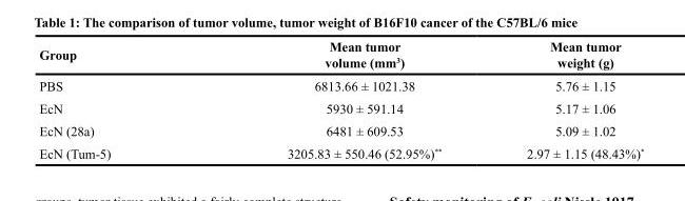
<table><thead><tr><td>Group</td><td>Mean tumor volume (mm<sup>3</sup>)</td><td>Mean tumor weight (g)</td></tr></thead><tbody><tr><td>PBS</td><td>6813.66 ± 1021.38</td><td>5.76 ± 1.15</td></tr><tr><td>EcN</td><td>5930 ± 591.14</td><td>5.17 ± 1.06</td></tr><tr><td>EcN (28a)</td><td>6481 ± 609.53</td><td>5.09 ± 1.02</td></tr><tr><td>EcN (Tum-5)</td><td>3205.83 ± 550.46 (52.95%)**</td><td>2.97 ± 1.15 (48.43%)*</td></tr></tbody></table>